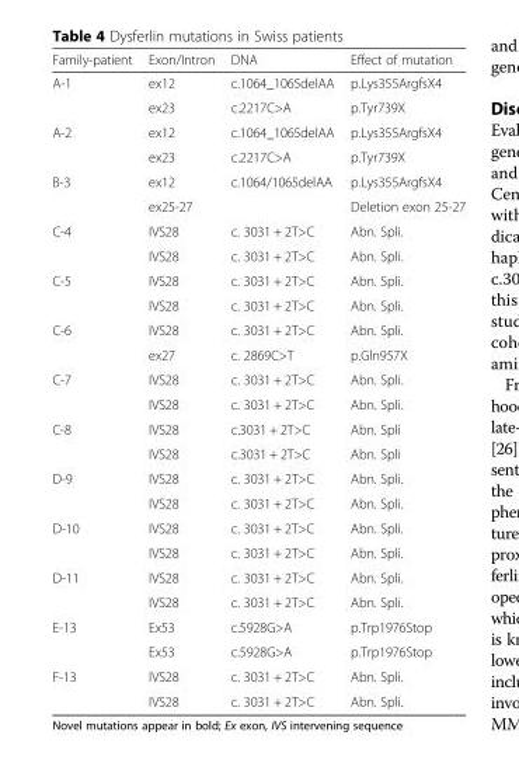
<table><thead><tr><td>Family-patient</td><td>Exon/Intron</td><td>DNA</td><td>Effect of mutation</td></tr></thead><tbody><tr><td rowspan="2">A-1</td><td>ex12</td><td>c.1064_1065delAA</td><td>p.Lys355ArgfsX4</td></tr><tr><td>ex23</td><td>c.2217C&gt;A</td><td>p.Tyr739X</td></tr><tr><td rowspan="2">A-2</td><td>ex12</td><td>c.1064_1065delAA</td><td>p.Lys355ArgfsX4</td></tr><tr><td>ex23</td><td>c.2217C&gt;A</td><td>p.Tyr739X</td></tr><tr><td rowspan="2">B-3</td><td>ex12</td><td>c.1064/1065delAA</td><td>p.Lys355ArgfsX4</td></tr><tr><td>ex25-27</td><td></td><td>Deletion exon 25-27</td></tr><tr><td rowspan="2">C-4</td><td>IVS28</td><td>c. 3031 + 2T&gt;C</td><td>Abn. Spli.</td></tr><tr><td>IVS28</td><td>c. 3031 + 2T&gt;C</td><td>Abn. Spli.</td></tr><tr><td rowspan="2">C-5</td><td>IVS28</td><td>c. 3031 + 2T&gt;C</td><td>Abn. Spli.</td></tr><tr><td>IVS28</td><td>c. 3031 + 2T&gt;C</td><td>Abn. Spli.</td></tr><tr><td rowspan="2">C-6</td><td>IVS28</td><td>c. 3031 + 2T&gt;C</td><td>Abn. Spli.</td></tr><tr><td>ex27</td><td>c. 2869C&gt;T</td><td>p.Gln957X</td></tr><tr><td rowspan="2">C-7</td><td>IVS28</td><td>c. 3031 + 2T&gt;C</td><td>Abn. Spli.</td></tr><tr><td>IVS28</td><td>c. 3031 + 2T&gt;C</td><td>Abn. Spli.</td></tr><tr><td rowspan="2">C-8</td><td>IVS28</td><td>c.3031 + 2T&gt;C</td><td>Abn. Spli</td></tr><tr><td>IVS28</td><td>c.3031 + 2T&gt;C</td><td>Abn. Spli</td></tr><tr><td rowspan="2">D-9</td><td>IVS28</td><td>c. 3031 + 2T&gt;C</td><td>Abn. Spli.</td></tr><tr><td>IVS28</td><td>c. 3031 + 2T&gt;C</td><td>Abn. Spli.</td></tr><tr><td rowspan="2">D-10</td><td>IVS28</td><td>c. 3031 + 2T&gt;C</td><td>Abn. Spli.</td></tr><tr><td>IVS28</td><td>c. 3031 + 2T&gt;C</td><td>Abn. Spli.</td></tr><tr><td rowspan="2">D-11</td><td>IVS28</td><td>c. 3031 + 2T&gt;C</td><td>Abn. Spli.</td></tr><tr><td>IVS28</td><td>c. 3031 + 2T&gt;C</td><td>Abn. Spli.</td></tr><tr><td rowspan="2">E-13</td><td>Ex53</td><td>c.5928G&gt;A</td><td>p.Trp1976Stop</td></tr><tr><td>Ex53</td><td>c.5928G&gt;A</td><td>p.Trp1976Stop</td></tr><tr><td rowspan="2">F-13</td><td>IVS28</td><td>c. 3031 + 2T&gt;C</td><td>Abn. Spli.</td></tr><tr><td>IVS28</td><td>c. 3031 + 2T&gt;C</td><td>Abn. Spli.</td></tr></tbody></table>